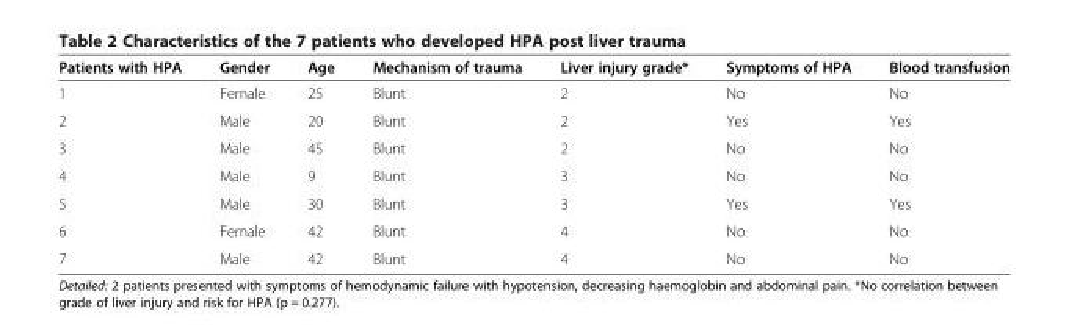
<table><thead><tr><td>Patients with HPA</td><td>Gender</td><td>Age</td><td>Mechanism of trauma</td><td>Liver injury grade*</td><td>Symptoms of HPA</td><td>Blood transfusion</td></tr></thead><tbody><tr><td>1</td><td>Female</td><td>25</td><td>Blunt</td><td>2</td><td>No</td><td>No</td></tr><tr><td>2</td><td>Male</td><td>20</td><td>Blunt</td><td>2</td><td>Yes</td><td>Yes</td></tr><tr><td>3</td><td>Male</td><td>45</td><td>Blunt</td><td>2</td><td>No</td><td>No</td></tr><tr><td>4</td><td>Male</td><td>9</td><td>Blunt</td><td>3</td><td>No</td><td>No</td></tr><tr><td>5</td><td>Male</td><td>30</td><td>Blunt</td><td>3</td><td>Yes</td><td>Yes</td></tr><tr><td>6</td><td>Female</td><td>42</td><td>Blunt</td><td>4</td><td>No</td><td>No</td></tr><tr><td>7</td><td>Male</td><td>42</td><td>Blunt</td><td>4</td><td>No</td><td>No</td></tr></tbody></table>